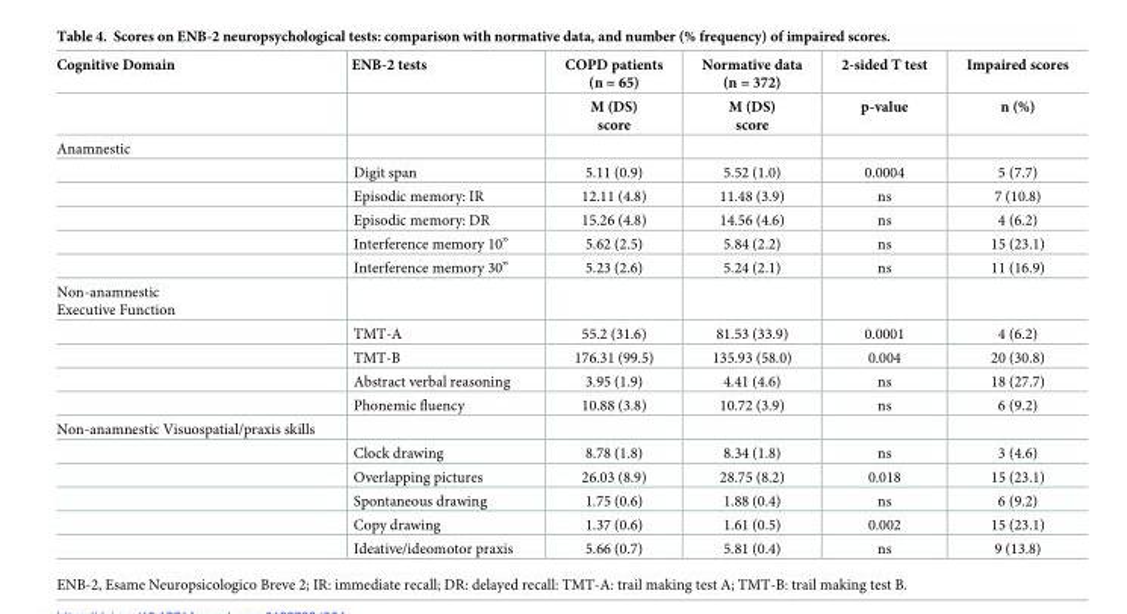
<table><thead><tr><td rowspan="2">Cognitive Domain</td><td rowspan="2">ENB-2 tests</td><td rowspan="2">COPD patients (n = 65) M (DS) score</td><td rowspan="2">Normative data (n = 372) M (DS) score</td><td rowspan="2">2-sided T test p-value</td><td rowspan="2">Impaired scores n (%)</td></tr><tr></tr></thead><tbody><tr><td colspan="6">Anamnestic</td></tr><tr><td></td><td>Digit span</td><td>5.11 (0.9)</td><td>5.52 (1.0)</td><td>0.0004</td><td>5 (7.7)</td></tr><tr><td></td><td>Episodic memory: IR</td><td>12.11 (4.8)</td><td>11.48 (3.9)</td><td>ns</td><td>7 (10.8)</td></tr><tr><td></td><td>Episodic memory: DR</td><td>15.26 (4.8)</td><td>14.56 (4.6)</td><td>ns</td><td>4 (6.2)</td></tr><tr><td></td><td>Interference memory 10”</td><td>5.62 (2.5)</td><td>5.84 (2.2)</td><td>ns</td><td>15 (23.1)</td></tr><tr><td></td><td>Interference memory 30”</td><td>5.23 (2.6)</td><td>5.24 (2.1)</td><td>ns</td><td>11 (16.9)</td></tr><tr><td colspan="6">Non-anamnestic Executive Function</td></tr><tr><td></td><td>TMT-A</td><td>55.2 (31.6)</td><td>81.53 (33.9)</td><td>0.0001</td><td>4 (6.2)</td></tr><tr><td></td><td>TMT-B</td><td>176.31 (99.5)</td><td>135.93 (58.0)</td><td>0.004</td><td>20 (30.8)</td></tr><tr><td></td><td>Abstract verbal reasoning</td><td>3.95 (1.9)</td><td>4.41 (4.6)</td><td>ns</td><td>18 (27.7)</td></tr><tr><td></td><td>Phonemic fluency</td><td>10.88 (3.8)</td><td>10.72 (3.9)</td><td>ns</td><td>6 (9.2)</td></tr><tr><td colspan="6">Non-anamnestic Visuospatial/praxis skills</td></tr><tr><td></td><td>Clock drawing</td><td>8.78 (1.8)</td><td>8.34 (1.8)</td><td>ns</td><td>3 (4.6)</td></tr><tr><td></td><td>Overlapping pictures</td><td>26.03 (8.9)</td><td>28.75 (8.2)</td><td>0.018</td><td>15 (23.1)</td></tr><tr><td></td><td>Spontaneous drawing</td><td>1.75 (0.6)</td><td>1.88 (0.4)</td><td>ns</td><td>6 (9.2)</td></tr><tr><td></td><td>Copy drawing</td><td>1.37 (0.6)</td><td>1.61 (0.5)</td><td>0.002</td><td>15 (23.1)</td></tr><tr><td></td><td>Ideative/ideomotor praxis</td><td>5.66 (0.7)</td><td>5.81 (0.4)</td><td>ns</td><td>9 (13.8)</td></tr></tbody></table>